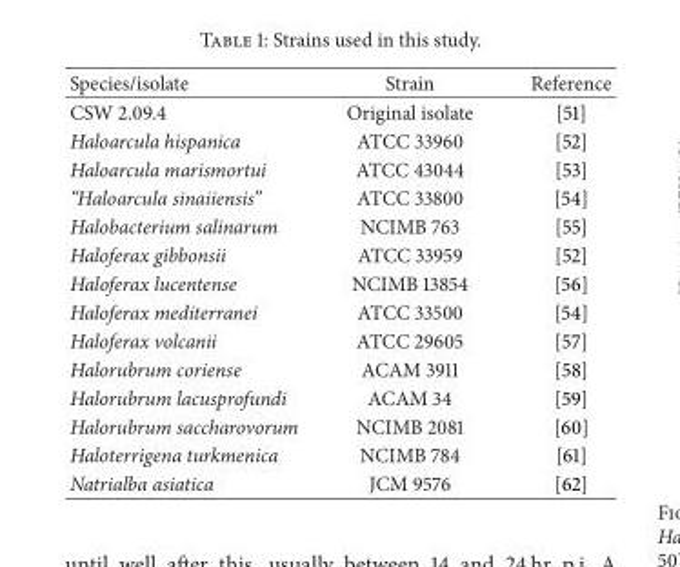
<table><thead><tr><td>Species/isolate</td><td>Strain</td><td>Reference</td></tr></thead><tbody><tr><td>CSW 2.09.4</td><td>Original isolate</td><td>[51]</td></tr><tr><td>Haloarcula hispanica</td><td>ATCC 33960</td><td>[52]</td></tr><tr><td>Haloarcula marismortui</td><td>ATCC 43044</td><td>[53]</td></tr><tr><td>“Haloarcula sinaiiensis”</td><td>ATCC 33800</td><td>[54]</td></tr><tr><td>Halobacterium salinarum</td><td>NCIMB 763</td><td>[55]</td></tr><tr><td>Haloferax gibbonsii</td><td>ATCC 33959</td><td>[52]</td></tr><tr><td>Haloferax lucentense</td><td>NCIMB 13854</td><td>[56]</td></tr><tr><td>Haloferax mediterranei</td><td>ATCC 33500</td><td>[54]</td></tr><tr><td>Haloferax volcanii</td><td>ATCC 29605</td><td>[57]</td></tr><tr><td>Halorubrum coriense</td><td>ACAM 3911</td><td>[58]</td></tr><tr><td>Halorubrum lacusprofundi</td><td>ACAM 34</td><td>[59]</td></tr><tr><td>Halorubrum saccharovorum</td><td>NCIMB 2081</td><td>[60]</td></tr><tr><td>Haloterrigena turkmenica</td><td>NCIMB 784</td><td>[61]</td></tr><tr><td>Natrialba asiatica</td><td>JCM 9576</td><td>[62]</td></tr></tbody></table>